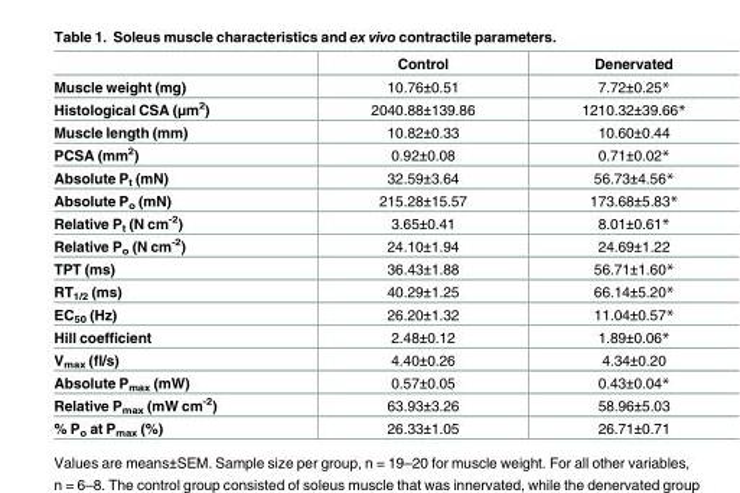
<table><thead><tr><td></td><td>Control</td><td>Denervated</td></tr></thead><tbody><tr><td>Muscle weight (mg)</td><td>10.76±0.51</td><td>7.72±0.25*</td></tr><tr><td>Histological CSA (μm<sup>2</sup>)</td><td>2040.88±139.86</td><td>1210.32±39.66*</td></tr><tr><td>Muscle length (mm)</td><td>10.82±0.33</td><td>10.60±0.44</td></tr><tr><td>PCSA (mm<sup>2</sup>)</td><td>0.92±0.08</td><td>0.71±0.02*</td></tr><tr><td>Absolute P<sub>t</sub> (mN)</td><td>32.59±3.64</td><td>56.73±4.56*</td></tr><tr><td>Absolute P<sub>o</sub> (mN)</td><td>215.28±15.57</td><td>173.68±5.83*</td></tr><tr><td>Relative P<sub>t</sub> (N cm<sup>-2</sup>)</td><td>3.65±0.41</td><td>8.01±0.61*</td></tr><tr><td>Relative P<sub>o</sub> (N cm<sup>-2</sup>)</td><td>24.10±1.94</td><td>24.69±1.22</td></tr><tr><td>TPT (ms)</td><td>36.43±1.88</td><td>56.71±1.60*</td></tr><tr><td>RT<sub>1/2</sub> (ms)</td><td>40.29±1.25</td><td>66.14±5.20*</td></tr><tr><td>EC<sub>50</sub> (Hz)</td><td>26.20±1.32</td><td>11.04±0.57*</td></tr><tr><td>Hill coefficient</td><td>2.48±0.12</td><td>1.89±0.06*</td></tr><tr><td>V<sub>max</sub> (fl/s)</td><td>4.40±0.26</td><td>4.34±0.20</td></tr><tr><td>Absolute P<sub>max</sub> (mW)</td><td>0.57±0.05</td><td>0.43±0.04*</td></tr><tr><td>Relative P<sub>max</sub> (mW cm<sup>-2</sup>)</td><td>63.93±3.26</td><td>58.96±5.03</td></tr><tr><td>% P<sub>o</sub> at P<sub>max</sub> (%)</td><td>26.33±1.05</td><td>26.71±0.71</td></tr></tbody></table>